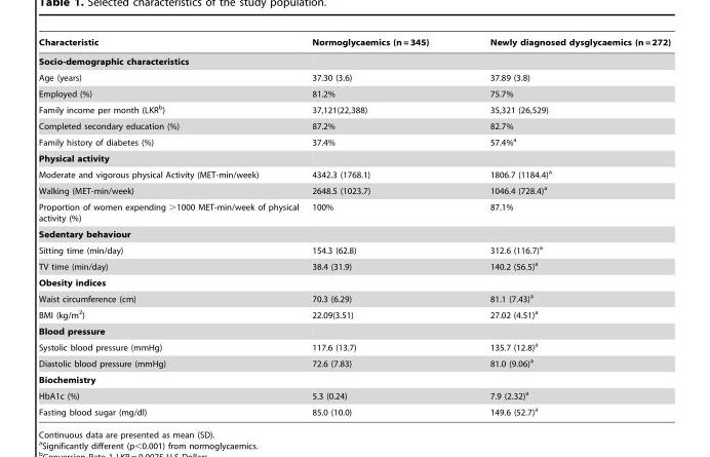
<table><thead><tr><td>Characteristic</td><td>Normoglycaemics (n = 345)</td><td>Newly diagnosed dysglycaemics (n = 272)</td></tr></thead><tbody><tr><td colspan="3">Socio-demographic characteristics</td></tr><tr><td>Age (years)</td><td>37.30 (3.6)</td><td>37.89 (3.8)</td></tr><tr><td>Employed (%)</td><td>81.2%</td><td>75.7%</td></tr><tr><td>Family income per month (LKR<sup>b</sup>)</td><td>37,121(22,388)</td><td>35,321 (26,529)</td></tr><tr><td>Completed secondary education (%)</td><td>87.2%</td><td>82.7%</td></tr><tr><td>Family history of diabetes (%)</td><td>37.4%</td><td>57.4%<sup>a</sup></td></tr><tr><td colspan="3">Physical activity</td></tr><tr><td>Moderate and vigorous physical Activity (MET-min/week)</td><td>4342.3 (1768.1)</td><td>1806.7 (1184.4)<sup>a</sup></td></tr><tr><td>Walking (MET-min/week)</td><td>2648.5 (1023.7)</td><td>1046.4 (728.4)<sup>a</sup></td></tr><tr><td>Proportion of women expending &gt;1000 MET-min/week of physical activity (%)</td><td>100%</td><td>87.1%</td></tr><tr><td colspan="3">Sedentary behaviour</td></tr><tr><td>Sitting time (min/day)</td><td>154.3 (62.8)</td><td>312.6 (116.7)<sup>a</sup></td></tr><tr><td>TV time (min/day)</td><td>38.4 (31.9)</td><td>140.2 (56.5)<sup>a</sup></td></tr><tr><td colspan="3">Obesity indices</td></tr><tr><td>Waist circumference (cm)</td><td>70.3 (6.29)</td><td>81.1 (7.43)<sup>a</sup></td></tr><tr><td>BMI (kg/m<sup>2</sup>)</td><td>22.09(3.51)</td><td>27.02 (4.51)<sup>a</sup></td></tr><tr><td colspan="3">Blood pressure</td></tr><tr><td>Systolic blood pressure (mmHg)</td><td>117.6 (13.7)</td><td>135.7 (12.8)<sup>a</sup></td></tr><tr><td>Diastolic blood pressure (mmHg)</td><td>72.6 (7.83)</td><td>81.0 (9.06)<sup>a</sup></td></tr><tr><td colspan="3">Biochemistry</td></tr><tr><td>HbA1c (%)</td><td>5.3 (0.24)</td><td>7.9 (2.32)<sup>a</sup></td></tr><tr><td>Fasting blood sugar (mg/dl)</td><td>85.0 (10.0)</td><td>149.6 (52.7)<sup>a</sup></td></tr></tbody></table>